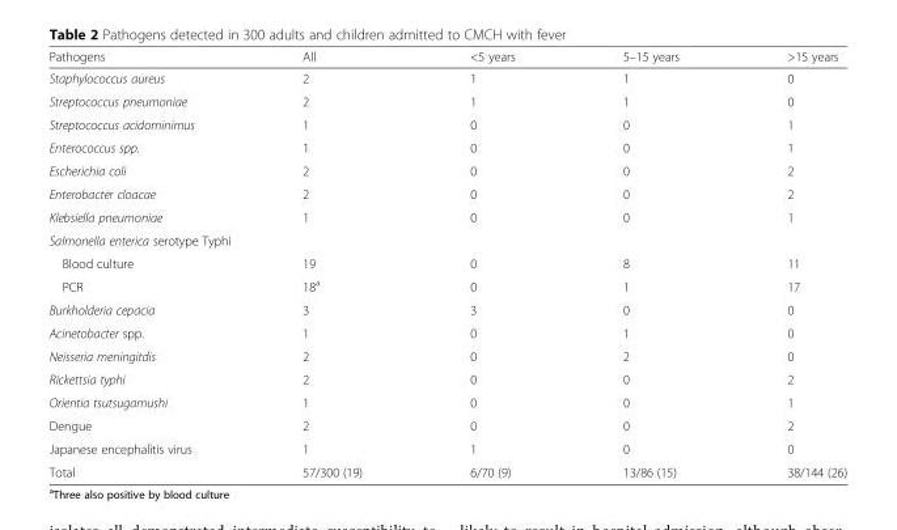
<table><thead><tr><td>Pathogens</td><td>All</td><td>&lt;5 years</td><td>5–15 years</td><td>&gt;15 years</td></tr></thead><tbody><tr><td>Staphylococcus aureus</td><td>2</td><td>1</td><td>1</td><td>0</td></tr><tr><td>Streptococcus pneumoniae</td><td>2</td><td>1</td><td>1</td><td>0</td></tr><tr><td>Streptococcus acidominimus</td><td>1</td><td>0</td><td>0</td><td>1</td></tr><tr><td>Enterococcus spp.</td><td>1</td><td>0</td><td>0</td><td>1</td></tr><tr><td>Escherichia coli</td><td>2</td><td>0</td><td>0</td><td>2</td></tr><tr><td>Enterobacter cloacae</td><td>2</td><td>0</td><td>0</td><td>2</td></tr><tr><td>Klebsiella pneumoniae</td><td>1</td><td>0</td><td>0</td><td>1</td></tr><tr><td colspan="5">Salmonella enterica serotype Typhi</td></tr><tr><td>Blood culture</td><td>19</td><td>0</td><td>8</td><td>11</td></tr><tr><td>PCR</td><td>18<sup>a</sup></td><td>0</td><td>1</td><td>17</td></tr><tr><td>Burkholderia cepacia</td><td>3</td><td>3</td><td>0</td><td>0</td></tr><tr><td>Acinetobacter spp.</td><td>1</td><td>0</td><td>1</td><td>0</td></tr><tr><td>Neisseria meningitdis</td><td>2</td><td>0</td><td>2</td><td>0</td></tr><tr><td>Rickettsia typhi</td><td>2</td><td>0</td><td>0</td><td>2</td></tr><tr><td>Orientia tsutsugamushi</td><td>1</td><td>0</td><td>0</td><td>1</td></tr><tr><td>Dengue</td><td>2</td><td>0</td><td>0</td><td>2</td></tr><tr><td>Japanese encephalitis virus</td><td>1</td><td>1</td><td>0</td><td>0</td></tr><tr><td>Total</td><td>57/300 (19)</td><td>6/70 (9)</td><td>13/86 (15)</td><td>38/144 (26)</td></tr></tbody></table>